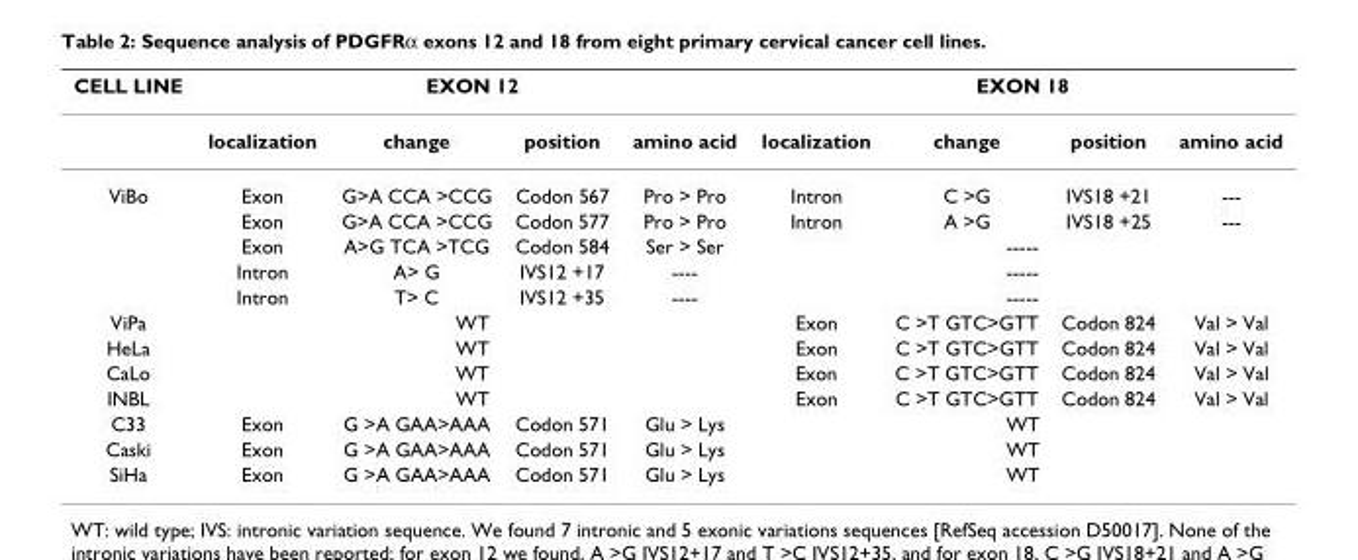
<table><thead><tr><td rowspan="2">CELL LINE</td><td colspan="4">EXON 12</td><td colspan="4">EXON 18</td></tr><tr><td>localization</td><td>change</td><td>position</td><td>amino acid</td><td>localization</td><td>change</td><td>position</td><td>amino acid</td></tr></thead><tbody><tr><td rowspan="5">ViBo</td><td>Exon</td><td>G&gt;A CCA &gt;CCG</td><td>Codon 567</td><td>Pro &gt; Pro</td><td>Intron</td><td>C &gt;G</td><td>IVS18 +21</td><td>---</td></tr><tr><td>Exon</td><td>G&gt;A CCA &gt;CCG</td><td>Codon 577</td><td>Pro &gt; Pro</td><td>Intron</td><td>A &gt;G</td><td>IVS18 +25</td><td>---</td></tr><tr><td>Exon</td><td>A&gt;G TCA &gt;TCG</td><td>Codon 584</td><td>Ser &gt; Ser</td><td colspan="4">-----</td></tr><tr><td>Intron</td><td>A&gt; G</td><td>IVS12 +17</td><td>----</td><td colspan="4">-----</td></tr><tr><td>Intron</td><td>T&gt; C</td><td>IVS12 +35</td><td>----</td><td colspan="4">-----</td></tr><tr><td>ViPa</td><td colspan="4">WT</td><td>Exon</td><td>C &gt;T GTC&gt;GTT</td><td>Codon 824</td><td>Val &gt; Val</td></tr><tr><td>HeLa</td><td colspan="4">WT</td><td>Exon</td><td>C &gt;T GTC&gt;GTT</td><td>Codon 824</td><td>Val &gt; Val</td></tr><tr><td>CaLo</td><td colspan="4">WT</td><td>Exon</td><td>C &gt;T GTC&gt;GTT</td><td>Codon 824</td><td>Val &gt; Val</td></tr><tr><td>INBL</td><td colspan="4">WT</td><td>Exon</td><td>C &gt;T GTC&gt;GTT</td><td>Codon 824</td><td>Val &gt; Val</td></tr><tr><td>C33</td><td>Exon</td><td>G &gt;A GAA&gt;AAA</td><td>Codon 571</td><td>Glu &gt; Lys</td><td colspan="4">WT</td></tr><tr><td>Caski</td><td>Exon</td><td>G &gt;A GAA&gt;AAA</td><td>Codon 571</td><td>Glu &gt; Lys</td><td colspan="4">WT</td></tr><tr><td>SiHa</td><td>Exon</td><td>G &gt;A GAA&gt;AAA</td><td>Codon 571</td><td>Glu &gt; Lys</td><td colspan="4">WT</td></tr></tbody></table>